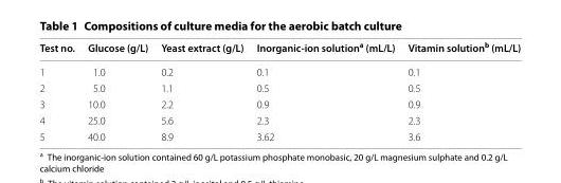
<table><thead><tr><td>Test no.</td><td>Glucose (g/L)</td><td>Yeast extract (g/L)</td><td>Inorganic-ion solution<sup>a</sup> (mL/L)</td><td>Vitamin solution<sup>b</sup> (mL/L)</td></tr></thead><tbody><tr><td>1</td><td>1.0</td><td>0.2</td><td>0.1</td><td>0.1</td></tr><tr><td>2</td><td>5.0</td><td>1.1</td><td>0.5</td><td>0.5</td></tr><tr><td>3</td><td>10.0</td><td>2.2</td><td>0.9</td><td>0.9</td></tr><tr><td>4</td><td>25.0</td><td>5.6</td><td>2.3</td><td>2.3</td></tr><tr><td>5</td><td>40.0</td><td>8.9</td><td>3.62</td><td>3.6</td></tr></tbody></table>